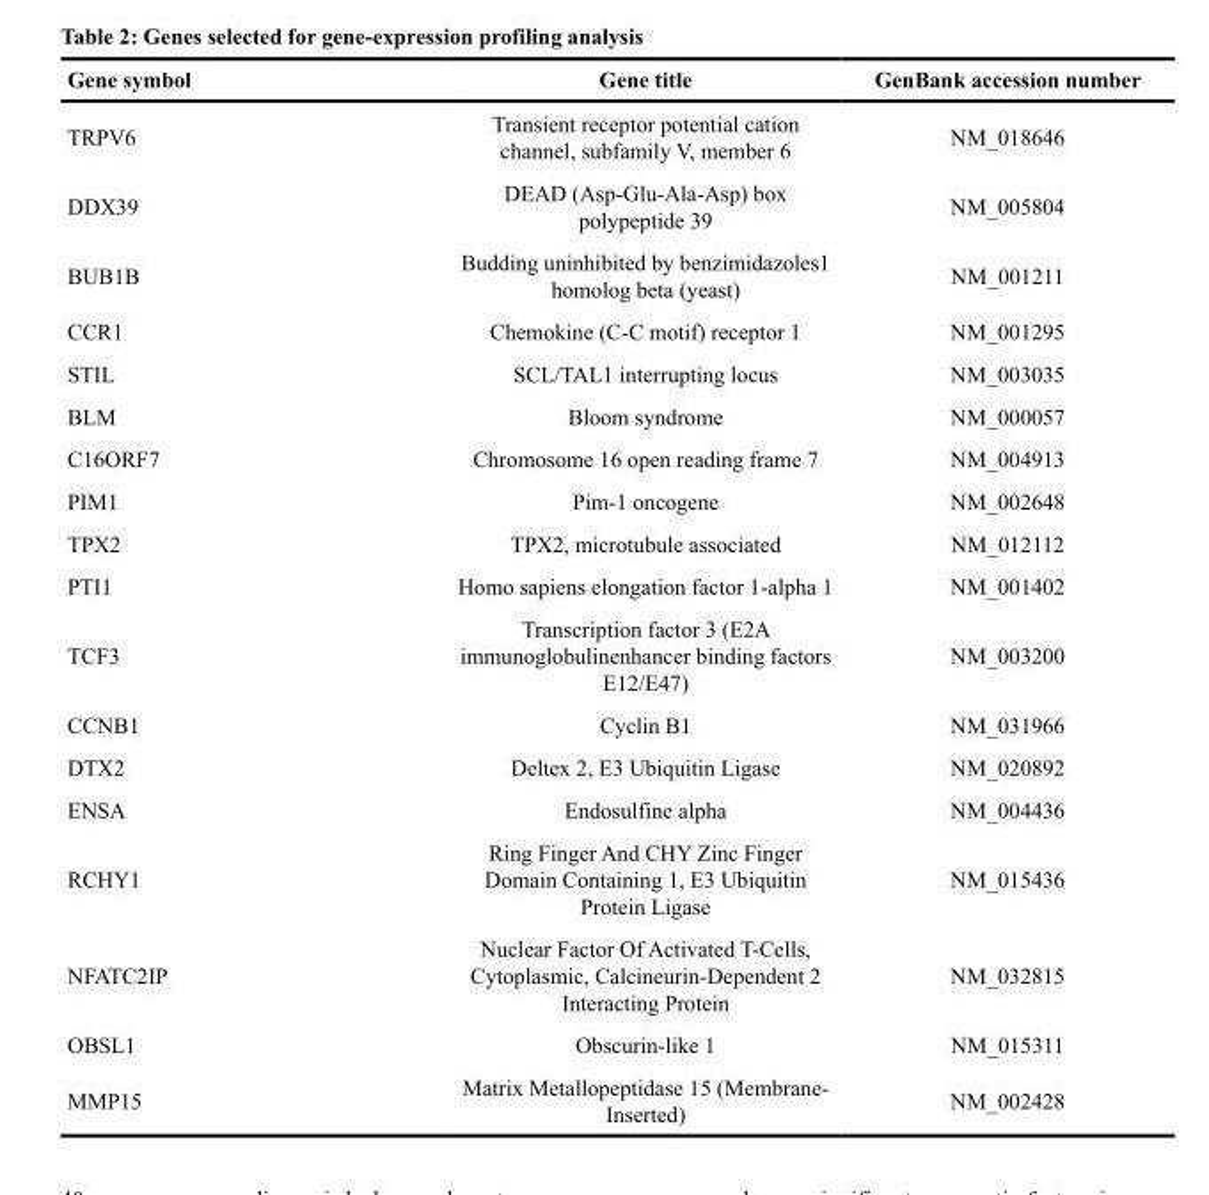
<table><thead><tr><td>Gene symbol</td><td>Gene title</td><td>GenBank accession number</td></tr></thead><tbody><tr><td>TRPV6</td><td>Transient receptor potential cation channel, subfamily V, member 6</td><td>NM_018646</td></tr><tr><td>DDX39</td><td>DEAD (Asp-Glu-Ala-Asp) box polypeptide 39</td><td>NM_005804</td></tr><tr><td>BUB1B</td><td>Budding uninhibited by benzimidazoles1 homolog beta (yeast)</td><td>NM_001211</td></tr><tr><td>CCR1</td><td>Chemokine (C-C motif) receptor 1</td><td>NM_001295</td></tr><tr><td>STIL</td><td>SCL/TAL1 interrupting locus</td><td>NM_003035</td></tr><tr><td>BLM</td><td>Bloom syndrome</td><td>NM_000057</td></tr><tr><td>C16ORF7</td><td>Chromosome 16 open reading frame 7</td><td>NM_004913</td></tr><tr><td>PIM1</td><td>Pim-1 oncogene</td><td>NM_002648</td></tr><tr><td>TPX2</td><td>TPX2, microtubule associated</td><td>NM_012112</td></tr><tr><td>PTI1</td><td>Homo sapiens elongation factor 1-alpha 1</td><td>NM_001402</td></tr><tr><td>TCF3</td><td>Transcription factor 3 (E2A immunoglobulinenhancer binding factors E12/E47)</td><td>NM_003200</td></tr><tr><td>CCNB1</td><td>Cyclin B1</td><td>NM_031966</td></tr><tr><td>DTX2</td><td>Deltex 2, E3 Ubiquitin Ligase</td><td>NM_020892</td></tr><tr><td>ENSA</td><td>Endosulfine alpha</td><td>NM_004436</td></tr><tr><td>RCHY1</td><td>Ring Finger And CHY Zinc Finger Domain Containing 1, E3 Ubiquitin Protein Ligase</td><td>NM_015436</td></tr><tr><td>NFATC2IP</td><td>Nuclear Factor Of Activated T-Cells, Cytoplasmic, Calcineurin-Dependent 2 Interacting Protein</td><td>NM_032815</td></tr><tr><td>OBSL1</td><td>Obscurin-like 1</td><td>NM_015311</td></tr><tr><td>MMP15</td><td>Matrix Metallopeptidase 15 (Membrane- Inserted)</td><td>NM_002428</td></tr></tbody></table>